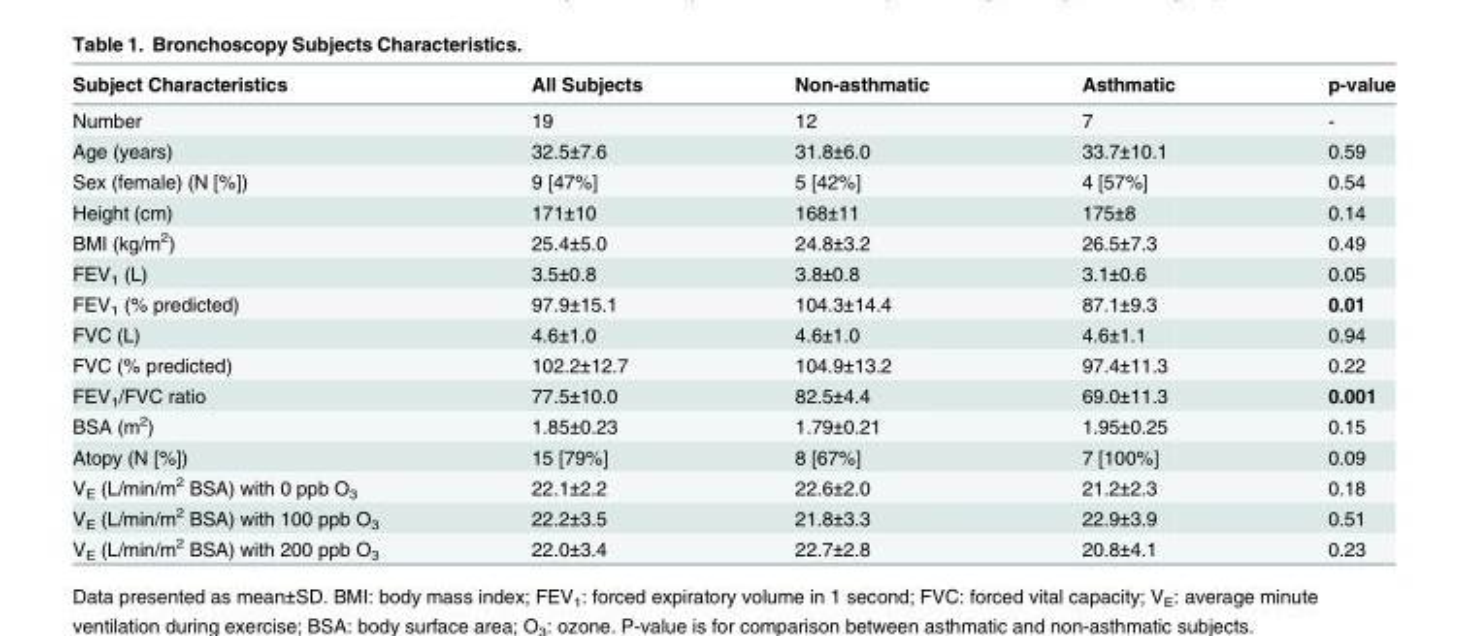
<table><thead><tr><td>Subject Characteristics</td><td>All Subjects</td><td>Non-asthmatic</td><td>Asthmatic</td><td>p-value</td></tr></thead><tbody><tr><td>Number</td><td>19</td><td>12</td><td>7</td><td>-</td></tr><tr><td>Age (years)</td><td>32.5±7.6</td><td>31.8±6.0</td><td>33.7±10.1</td><td>0.59</td></tr><tr><td>Sex (female) (N [%])</td><td>9 [47%]</td><td>5 [42%]</td><td>4 [57%]</td><td>0.54</td></tr><tr><td>Height (cm)</td><td>171±10</td><td>168±11</td><td>175±8</td><td>0.14</td></tr><tr><td>BMI (kg/m<sup>2</sup>)</td><td>25.4±5.0</td><td>24.8±3.2</td><td>26.5±7.3</td><td>0.49</td></tr><tr><td>FEV<sub>1</sub> (L)</td><td>3.5±0.8</td><td>3.8±0.8</td><td>3.1±0.6</td><td>0.05</td></tr><tr><td>FEV<sub>1</sub> (% predicted)</td><td>97.9±15.1</td><td>104.3±14.4</td><td>87.1±9.3</td><td>0.01</td></tr><tr><td>FVC (L)</td><td>4.6±1.0</td><td>4.6±1.0</td><td>4.6±1.1</td><td>0.94</td></tr><tr><td>FVC (% predicted)</td><td>102.2±12.7</td><td>104.9±13.2</td><td>97.4±11.3</td><td>0.22</td></tr><tr><td>FEV<sub>1</sub>/FVC ratio</td><td>77.5±10.0</td><td>82.5±4.4</td><td>69.0±11.3</td><td>0.001</td></tr><tr><td>BSA (m<sup>2</sup>)</td><td>1.85±0.23</td><td>1.79±0.21</td><td>1.95±0.25</td><td>0.15</td></tr><tr><td>Atopy (N [%])</td><td>15 [79%]</td><td>8 [67%]</td><td>7 [100%]</td><td>0.09</td></tr><tr><td>V<sub>E</sub> (L/min/m<sup>2</sup> BSA) with 0 ppb O<sub>3</sub></td><td>22.1±2.2</td><td>22.6±2.0</td><td>21.2±2.3</td><td>0.18</td></tr><tr><td>V<sub>E</sub> (L/min/m<sup>2</sup> BSA) with 100 ppb O<sub>3</sub></td><td>22.2±3.5</td><td>21.8±3.3</td><td>22.9±3.9</td><td>0.51</td></tr><tr><td>V<sub>E</sub> (L/min/m<sup>2</sup> BSA) with 200 ppb O<sub>3</sub></td><td>22.0±3.4</td><td>22.7±2.8</td><td>20.8±4.1</td><td>0.23</td></tr></tbody></table>